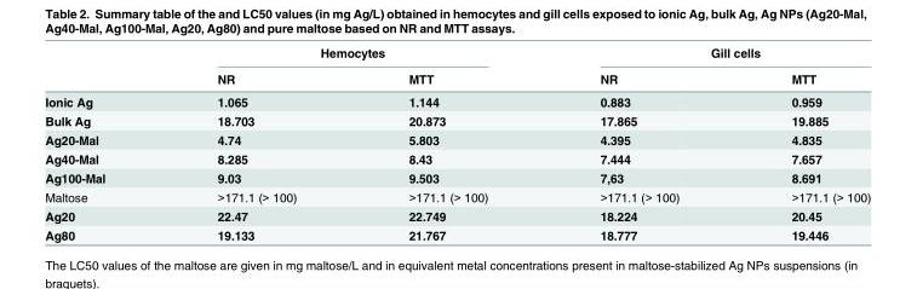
<table><thead><tr><td rowspan="2"></td><td colspan="2">Hemocytes</td><td colspan="2">Gill cells</td></tr><tr><td>NR</td><td>MTT</td><td>NR</td><td>MTT</td></tr></thead><tbody><tr><td>Ionic Ag</td><td>1.065</td><td>1.144</td><td>0.883</td><td>0.959</td></tr><tr><td>Bulk Ag</td><td>18.703</td><td>20.873</td><td>17.865</td><td>19.885</td></tr><tr><td>Ag20-Mal</td><td>4.74</td><td>5.803</td><td>4.395</td><td>4.835</td></tr><tr><td>Ag40-Mal</td><td>8.285</td><td>8.43</td><td>7.444</td><td>7.657</td></tr><tr><td>Ag100-Mal</td><td>9.03</td><td>9.503</td><td>7,63</td><td>8.691</td></tr><tr><td>Maltose</td><td>&gt;171.1 (&gt; 100)</td><td>&gt;171.1 (&gt; 100)</td><td>&gt;171.1 (&gt; 100)</td><td>&gt;171.1 (&gt; 100)</td></tr><tr><td>Ag20</td><td>22.47</td><td>22.749</td><td>18.224</td><td>20.45</td></tr><tr><td>Ag80</td><td>19.133</td><td>21.767</td><td>18.777</td><td>19.446</td></tr></tbody></table>